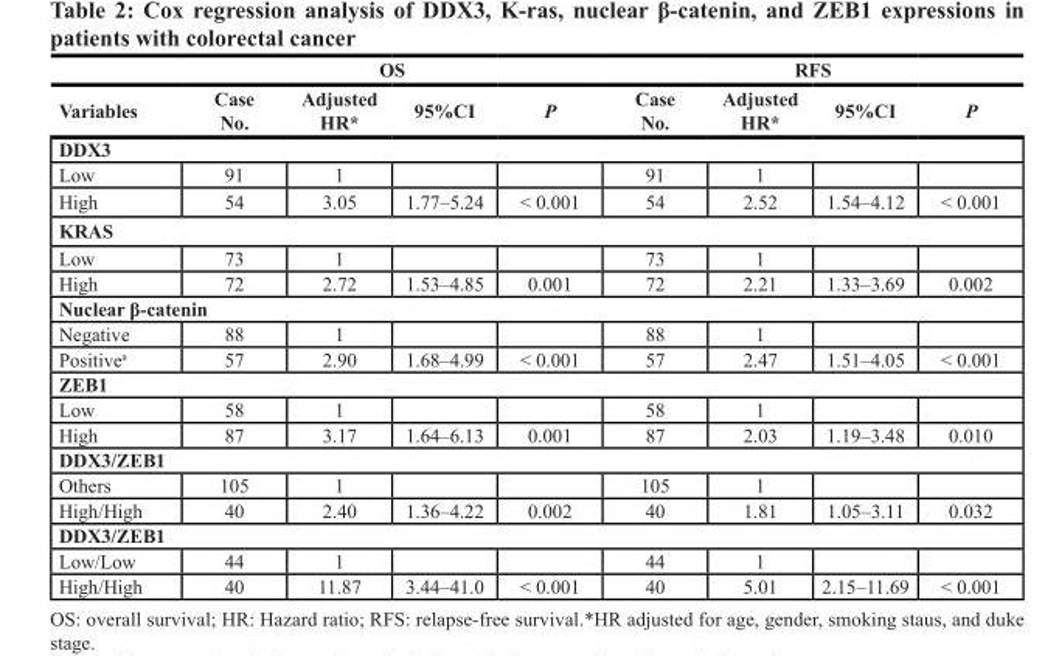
<table><thead><tr><td rowspan="2">Variables</td><td colspan="4">OS</td><td colspan="4">RFS</td></tr><tr><td>Case No.</td><td>Adjusted HR*</td><td>95%CI</td><td>P</td><td>Case No.</td><td>Adjusted HR*</td><td>95%CI</td><td>P</td></tr></thead><tbody><tr><td colspan="9">DDX3</td></tr><tr><td>Low</td><td>91</td><td>1</td><td></td><td></td><td>91</td><td>1</td><td></td><td></td></tr><tr><td>High</td><td>54</td><td>3.05</td><td>1.77–5.24</td><td>&lt; 0.001</td><td>54</td><td>2.52</td><td>1.54–4.12</td><td>&lt; 0.001</td></tr><tr><td colspan="9">KRAS</td></tr><tr><td>Low</td><td>73</td><td>1</td><td></td><td></td><td>73</td><td>1</td><td></td><td></td></tr><tr><td>High</td><td>72</td><td>2.72</td><td>1.53–4.85</td><td>0.001</td><td>72</td><td>2.21</td><td>1.33–3.69</td><td>0.002</td></tr><tr><td colspan="9">Nuclear β‑catenin</td></tr><tr><td>Negative</td><td>88</td><td>1</td><td></td><td></td><td>88</td><td>1</td><td></td><td></td></tr><tr><td>Positive<sup>a</sup></td><td>57</td><td>2.90</td><td>1.68–4.99</td><td>&lt; 0.001</td><td>57</td><td>2.47</td><td>1.51–4.05</td><td>&lt; 0.001</td></tr><tr><td colspan="9">ZEB1</td></tr><tr><td>Low</td><td>58</td><td>1</td><td></td><td></td><td>58</td><td>1</td><td></td><td></td></tr><tr><td>High</td><td>87</td><td>3.17</td><td>1.64–6.13</td><td>0.001</td><td>87</td><td>2.03</td><td>1.19–3.48</td><td>0.010</td></tr><tr><td colspan="9">DDX3/ZEB1</td></tr><tr><td>Others</td><td>105</td><td>1</td><td></td><td></td><td>105</td><td>1</td><td></td><td></td></tr><tr><td>High/High</td><td>40</td><td>2.40</td><td>1.36–4.22</td><td>0.002</td><td>40</td><td>1.81</td><td>1.05–3.11</td><td>0.032</td></tr><tr><td colspan="9">DDX3/ZEB1</td></tr><tr><td>Low/Low</td><td>44</td><td>1</td><td></td><td></td><td>44</td><td>1</td><td></td><td></td></tr><tr><td>High/High</td><td>40</td><td>11.87</td><td>3.44–41.0</td><td>&lt; 0.001</td><td>40</td><td>5.01</td><td>2.15–11.69</td><td>&lt; 0.001</td></tr></tbody></table>